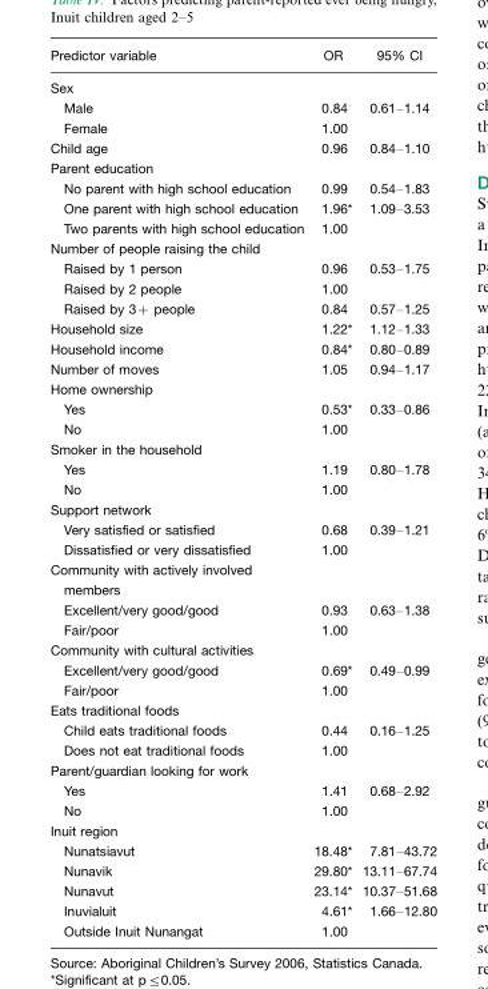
<table><thead><tr><td>Predictor variable</td><td>OR</td><td>95% CI</td></tr></thead><tbody><tr><td colspan="3">Sex</td></tr><tr><td>Male</td><td>0.84</td><td>0.61–1.14</td></tr><tr><td>Female</td><td>1.00</td><td></td></tr><tr><td>Child age</td><td>0.96</td><td>0.84–1.10</td></tr><tr><td colspan="3">Parent education</td></tr><tr><td>No parent with high school education</td><td>0.99</td><td>0.54–1.83</td></tr><tr><td>One parent with high school education</td><td>1.96*</td><td>1.09–3.53</td></tr><tr><td>Two parents with high school education</td><td>1.00</td><td></td></tr><tr><td colspan="3">Number of people raising the child</td></tr><tr><td>Raised by 1 person</td><td>0.96</td><td>0.53–1.75</td></tr><tr><td>Raised by 2 people</td><td>1.00</td><td></td></tr><tr><td>Raised by 3+ people</td><td>0.84</td><td>0.57–1.25</td></tr><tr><td>Household size</td><td>1.22*</td><td>1.12–1.33</td></tr><tr><td>Household income</td><td>0.84*</td><td>0.80–0.89</td></tr><tr><td>Number of moves</td><td>1.05</td><td>0.94–1.17</td></tr><tr><td colspan="3">Home ownership</td></tr><tr><td>Yes</td><td>0.53*</td><td>0.33–0.86</td></tr><tr><td>No</td><td>1.00</td><td></td></tr><tr><td colspan="3">Smoker in the household</td></tr><tr><td>Yes</td><td>1.19</td><td>0.80–1.78</td></tr><tr><td>No</td><td>1.00</td><td></td></tr><tr><td colspan="3">Support network</td></tr><tr><td>Very satisfied or satisfied</td><td>0.68</td><td>0.39–1.21</td></tr><tr><td>Dissatisfied or very dissatisfied</td><td>1.00</td><td></td></tr><tr><td colspan="3">Community with actively involved members</td></tr><tr><td>Excellent/very good/good</td><td>0.93</td><td>0.63–1.38</td></tr><tr><td>Fair/poor</td><td>1.00</td><td></td></tr><tr><td colspan="3">Community with cultural activities</td></tr><tr><td>Excellent/very good/good</td><td>0.69*</td><td>0.49–0.99</td></tr><tr><td>Fair/poor</td><td>1.00</td><td></td></tr><tr><td colspan="3">Eats traditional foods</td></tr><tr><td>Child eats traditional foods</td><td>0.44</td><td>0.16–1.25</td></tr><tr><td>Does not eat traditional foods</td><td>1.00</td><td></td></tr><tr><td colspan="3">Parent/guardian looking for work</td></tr><tr><td>Yes</td><td>1.41</td><td>0.68–2.92</td></tr><tr><td>No</td><td>1.00</td><td></td></tr><tr><td colspan="3">Inuit region</td></tr><tr><td>Nunatsiavut</td><td>18.48*</td><td>7.81–43.72</td></tr><tr><td>Nunavik</td><td>29.80*</td><td>13.11–67.74</td></tr><tr><td>Nunavut</td><td>23.14*</td><td>10.37–51.68</td></tr><tr><td>Inuvialuit</td><td>4.61*</td><td>1.66–12.80</td></tr><tr><td>Outside Inuit Nunangat</td><td>1.00</td><td></td></tr></tbody></table>